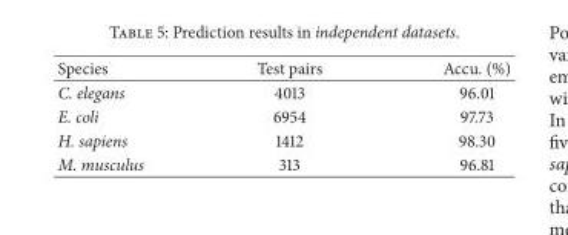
<table><thead><tr><td>Species</td><td>Test pairs</td><td>Accu. (%)</td></tr></thead><tbody><tr><td>C. elegans</td><td>4013</td><td>96.01</td></tr><tr><td>E. coli</td><td>6954</td><td>97.73</td></tr><tr><td>H. sapiens</td><td>1412</td><td>98.30</td></tr><tr><td>M. musculus</td><td>313</td><td>96.81</td></tr></tbody></table>